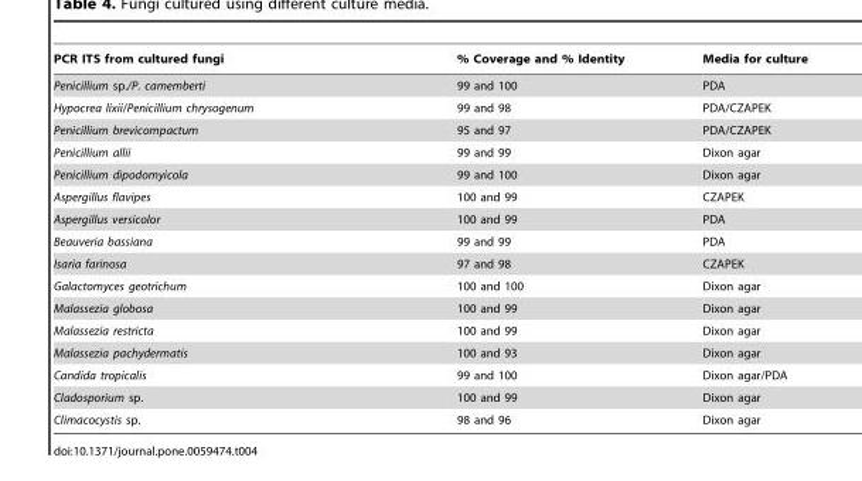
<table><thead><tr><td>PCR ITS from cultured fungi</td><td>% Coverage and % Identity</td><td>Media for culture</td></tr></thead><tbody><tr><td>Penicillium sp./P. camemberti</td><td>99 and 100</td><td>PDA</td></tr><tr><td>Hypocrea lixii/Penicillium chrysogenum</td><td>99 and 98</td><td>PDA/CZAPEK</td></tr><tr><td>Penicillium brevicompactum</td><td>95 and 97</td><td>PDA/CZAPEK</td></tr><tr><td>Penicillium allii</td><td>99 and 99</td><td>Dixon agar</td></tr><tr><td>Penicillium dipodomyicola</td><td>99 and 100</td><td>Dixon agar</td></tr><tr><td>Aspergillus flavipes</td><td>100 and 99</td><td>CZAPEK</td></tr><tr><td>Aspergillus versicolor</td><td>100 and 99</td><td>PDA</td></tr><tr><td>Beauveria bassiana</td><td>99 and 99</td><td>PDA</td></tr><tr><td>Isaria farinosa</td><td>97 and 98</td><td>CZAPEK</td></tr><tr><td>Galactomyces geotrichum</td><td>100 and 100</td><td>Dixon agar</td></tr><tr><td>Malassezia globosa</td><td>100 and 99</td><td>Dixon agar</td></tr><tr><td>Malassezia restricta</td><td>100 and 99</td><td>Dixon agar</td></tr><tr><td>Malassezia pachydermatis</td><td>100 and 93</td><td>Dixon agar</td></tr><tr><td>Candida tropicalis</td><td>99 and 100</td><td>Dixon agar/PDA</td></tr><tr><td>Cladosporium sp.</td><td>100 and 99</td><td>Dixon agar</td></tr><tr><td>Climacocystis sp.</td><td>98 and 96</td><td>Dixon agar</td></tr></tbody></table>